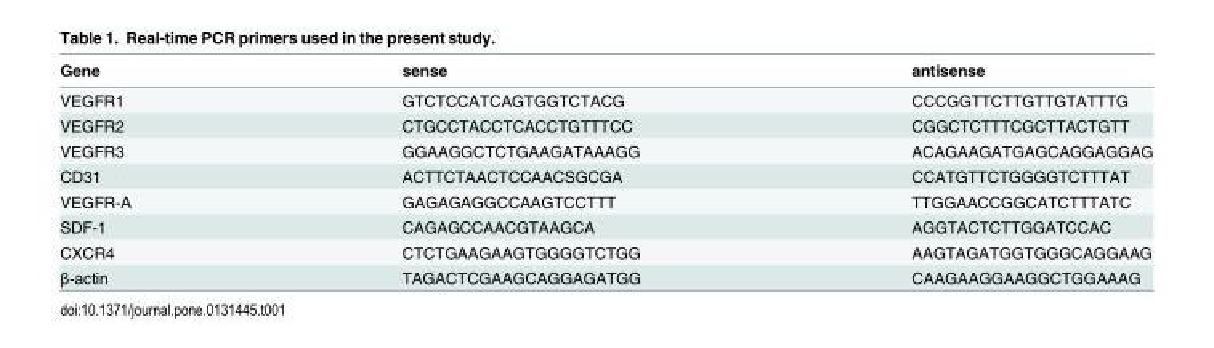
<table><thead><tr><td>Gene</td><td>sense</td><td>antisense</td></tr></thead><tbody><tr><td>VEGFR1</td><td>GTCTCCATCAGTGGTCTACG</td><td>CCCGGTTCTTGTTGTATTTG</td></tr><tr><td>VEGFR2</td><td>CTGCCTACCTCACCTGTTTCC</td><td>CGGCTCTTTCGCTTACTGTT</td></tr><tr><td>VEGFR3</td><td>GGAAGGCTCTGAAGATAAAGG</td><td>ACAGAAGATGAGCAGGAGGAG</td></tr><tr><td>CD31</td><td>ACTTCTAACTCCAACSGCGA</td><td>CCATGTTCTGGGGTCTTTAT</td></tr><tr><td>VEGFR-A</td><td>GAGAGAGGCCAAGTCCTTT</td><td>TTGGAACCGGCATCTTTATC</td></tr><tr><td>SDF-1</td><td>CAGAGCCAACGTAAGCA</td><td>AGGTACTCTTGGATCCAC</td></tr><tr><td>CXCR4</td><td>CTCTGAAGAAGTGGGGTCTGG</td><td>AAGTAGATGGTGGGCAGGAAG</td></tr><tr><td>β-actin</td><td>TAGACTCGAAGCAGGAGATGG</td><td>CAAGAAGGAAGGCTGGAAAG</td></tr></tbody></table>